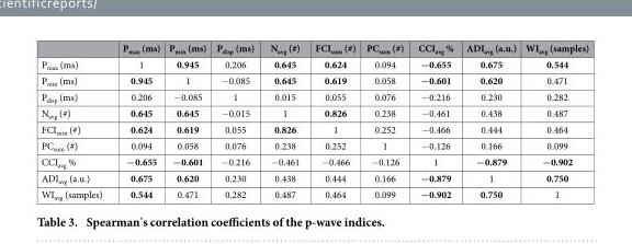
<table><thead><tr><td></td><td>P<sub>max</sub> (ms)</td><td>P<sub>min</sub> (ms)</td><td>P<sub>disp</sub> (ms)</td><td>N<sub>avg</sub> (#)</td><td>FCI<sub>sum</sub> (#)</td><td>PC<sub>sum</sub> (#)</td><td>CCI<sub>avg</sub> %</td><td>ADI<sub>avg</sub> (a.u.)</td><td>WI<sub>avg</sub> (samples)</td></tr></thead><tbody><tr><td>P<sub>max</sub> (ms)</td><td>1</td><td>0.945</td><td>0.206</td><td>0.645</td><td>0.624</td><td>0.094</td><td>−0.655</td><td>0.675</td><td>0.544</td></tr><tr><td>P<sub>min</sub> (ms)</td><td>0.945</td><td>1</td><td>− 0.085</td><td>0.645</td><td>0.619</td><td>0.058</td><td>−0.601</td><td>0.620</td><td>0.471</td></tr><tr><td>P<sub>disp</sub> (ms)</td><td>0.206</td><td>− 0.085</td><td>1</td><td>0.015</td><td>0.055</td><td>0.076</td><td>− 0.216</td><td>0.230</td><td>0.282</td></tr><tr><td>N<sub>avg</sub> (#)</td><td>0.645</td><td>0.645</td><td>− 0.015</td><td>1</td><td>0.826</td><td>0.238</td><td>− 0.461</td><td>0.438</td><td>0.487</td></tr><tr><td>FCI<sub>sum</sub> (#)</td><td>0.624</td><td>0.619</td><td>0.055</td><td>0.826</td><td>1</td><td>0.252</td><td>− 0.466</td><td>0.444</td><td>0.464</td></tr><tr><td>PC<sub>sum</sub> (#)</td><td>0.094</td><td>0.058</td><td>0.076</td><td>0.238</td><td>0.252</td><td>1</td><td>− 0.126</td><td>0.166</td><td>0.099</td></tr><tr><td>CCI<sub>avg</sub> %</td><td>−0.655</td><td>−0.601</td><td>− 0.216</td><td>− 0.461</td><td>− 0.466</td><td>− 0.126</td><td>1</td><td>−0.879</td><td>−0.902</td></tr><tr><td>ADI<sub>avg</sub> (a.u.)</td><td>0.675</td><td>0.620</td><td>0.230</td><td>0.438</td><td>0.444</td><td>0.166</td><td>−0.879</td><td>1</td><td>0.750</td></tr><tr><td>WI<sub>avg</sub> (samples)</td><td>0.544</td><td>0.471</td><td>0.282</td><td>0.487</td><td>0.464</td><td>0.099</td><td>−0.902</td><td>0.750</td><td>1</td></tr></tbody></table>